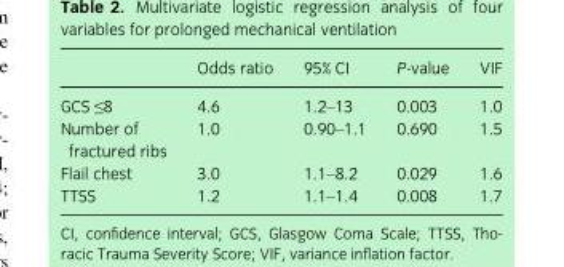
<table><thead><tr><td></td><td>Odds ratio</td><td>95% CI</td><td>P-value</td><td>VIF</td></tr></thead><tbody><tr><td>GCS ≤8</td><td>4.6</td><td>1.2–13</td><td>0.003</td><td>1.0</td></tr><tr><td>Number of fractured ribs</td><td>1.0</td><td>0.90–1.1</td><td>0.690</td><td>1.5</td></tr><tr><td>Flail chest</td><td>3.0</td><td>1.1–8.2</td><td>0.029</td><td>1.6</td></tr><tr><td>TTSS</td><td>1.2</td><td>1.1–1.4</td><td>0.008</td><td>1.7</td></tr></tbody></table>